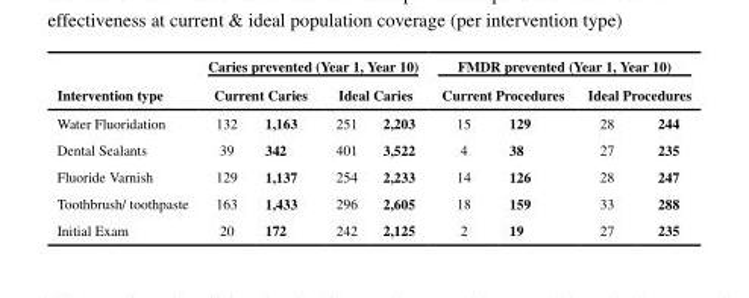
<table><thead><tr><td rowspan="3">Intervention type Water Fluoridation</td><td colspan="4">Caries prevented (Year 1, Year 10)</td><td colspan="4">FMDR prevented (Year 1, Year 10)</td></tr><tr><td colspan="2">Current Caries</td><td colspan="2">Ideal Caries</td><td colspan="2">Current Procedures</td><td colspan="2">Ideal Procedures</td></tr><tr><td>132</td><td>1,163</td><td>251</td><td>2,203</td><td>15</td><td>129</td><td>28</td><td>244</td></tr></thead><tbody><tr><td>Dental Sealants</td><td>39</td><td>342</td><td>401</td><td>3,522</td><td>4</td><td>38</td><td>27</td><td>235</td></tr><tr><td>Fluoride Varnish</td><td>129</td><td>1,137</td><td>254</td><td>2,233</td><td>14</td><td>126</td><td>28</td><td>247</td></tr><tr><td>Toothbrush/ toothpaste</td><td>163</td><td>1,433</td><td>296</td><td>2,605</td><td>18</td><td>159</td><td>33</td><td>288</td></tr><tr><td>Initial Exam</td><td>20</td><td>172</td><td>242</td><td>2,125</td><td>2</td><td>19</td><td>27</td><td>235</td></tr></tbody></table>